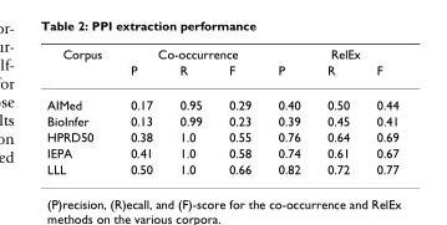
<table><thead><tr><td rowspan="2">Corpus</td><td colspan="3">Co-occurrence</td><td colspan="3">RelEx</td></tr><tr><td>P</td><td>R</td><td>F</td><td>P</td><td>R</td><td>F</td></tr></thead><tbody><tr><td>AIMed</td><td>0.17</td><td>0.95</td><td>0.29</td><td>0.40</td><td>0.50</td><td>0.44</td></tr><tr><td>BioInfer</td><td>0.13</td><td>0.99</td><td>0.23</td><td>0.39</td><td>0.45</td><td>0.41</td></tr><tr><td>HPRD50</td><td>0.38</td><td>1.0</td><td>0.55</td><td>0.76</td><td>0.64</td><td>0.69</td></tr><tr><td>IEPA</td><td>0.41</td><td>1.0</td><td>0.58</td><td>0.74</td><td>0.61</td><td>0.67</td></tr><tr><td>LLL</td><td>0.50</td><td>1.0</td><td>0.66</td><td>0.82</td><td>0.72</td><td>0.77</td></tr></tbody></table>